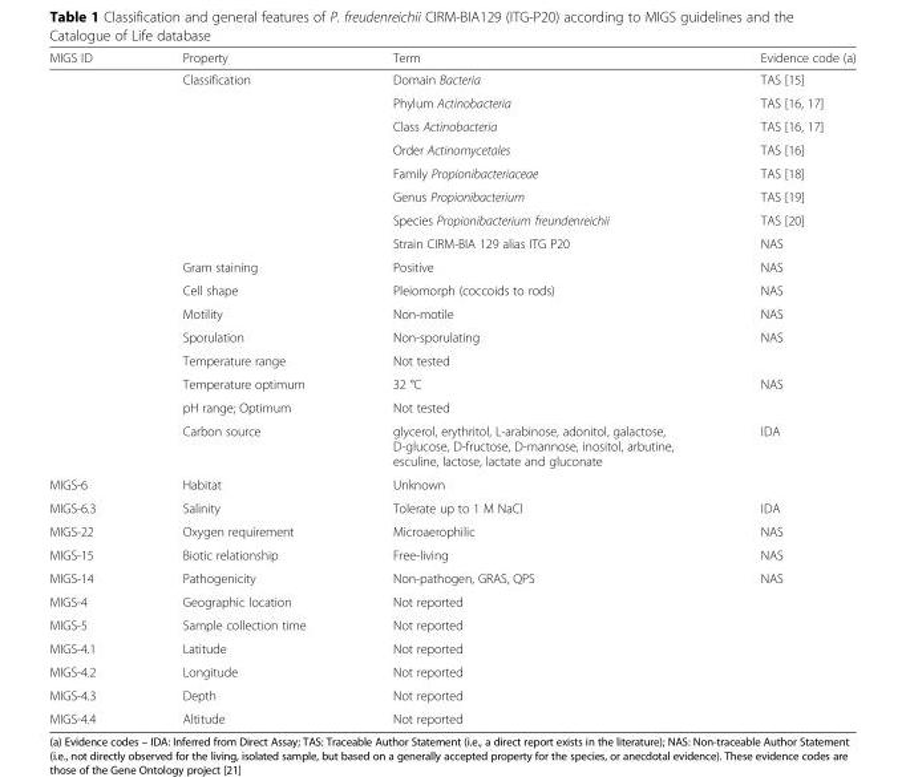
<table><thead><tr><td>MIGS ID</td><td>Property</td><td>Term</td><td>Evidence code (a)</td></tr></thead><tbody><tr><td></td><td>Classification</td><td>Domain Bacteria</td><td>TAS [15]</td></tr><tr><td></td><td></td><td>Phylum Actinobacteria</td><td>TAS [16, 17]</td></tr><tr><td></td><td></td><td>Class Actinobacteria</td><td>TAS [16, 17]</td></tr><tr><td></td><td></td><td>Order Actinomycetales</td><td>TAS [16]</td></tr><tr><td></td><td></td><td>Family Propionibacteriaceae</td><td>TAS [18]</td></tr><tr><td></td><td></td><td>Genus Propionibacterium</td><td>TAS [19]</td></tr><tr><td></td><td></td><td>Species Propionibacterium freundenreichii</td><td>TAS [20]</td></tr><tr><td></td><td></td><td>Strain CIRM-BIA 129 alias ITG P20</td><td>NAS</td></tr><tr><td></td><td>Gram staining</td><td>Positive</td><td>NAS</td></tr><tr><td></td><td>Cell shape</td><td>Pleiomorph (coccoids to rods)</td><td>NAS</td></tr><tr><td></td><td>Motility</td><td>Non-motile</td><td>NAS</td></tr><tr><td></td><td>Sporulation</td><td>Non-sporulating</td><td>NAS</td></tr><tr><td></td><td>Temperature range</td><td>Not tested</td><td></td></tr><tr><td></td><td>Temperature optimum</td><td>32 °C</td><td>NAS</td></tr><tr><td></td><td>pH range; Optimum</td><td>Not tested</td><td></td></tr><tr><td></td><td>Carbon source</td><td>glycerol, erythritol, L-arabinose, adonitol, galactose, D-glucose, D-fructose, D-mannose, inositol, arbutine, esculine, lactose, lactate and gluconate</td><td>IDA</td></tr><tr><td>MIGS-6</td><td>Habitat</td><td>Unknown</td><td></td></tr><tr><td>MIGS-6.3</td><td>Salinity</td><td>Tolerate up to 1 M NaCl</td><td>IDA</td></tr><tr><td>MIGS-22</td><td>Oxygen requirement</td><td>Microaerophilic</td><td>NAS</td></tr><tr><td>MIGS-15</td><td>Biotic relationship</td><td>Free-living</td><td>NAS</td></tr><tr><td>MIGS-14</td><td>Pathogenicity</td><td>Non-pathogen, GRAS, QPS</td><td>NAS</td></tr><tr><td>MIGS-4</td><td>Geographic location</td><td>Not reported</td><td></td></tr><tr><td>MIGS-5</td><td>Sample collection time</td><td>Not reported</td><td></td></tr><tr><td>MIGS-4.1</td><td>Latitude</td><td>Not reported</td><td></td></tr><tr><td>MIGS-4.2</td><td>Longitude</td><td>Not reported</td><td></td></tr><tr><td>MIGS-4.3</td><td>Depth</td><td>Not reported</td><td></td></tr><tr><td>MIGS-4.4</td><td>Altitude</td><td>Not reported</td><td></td></tr></tbody></table>